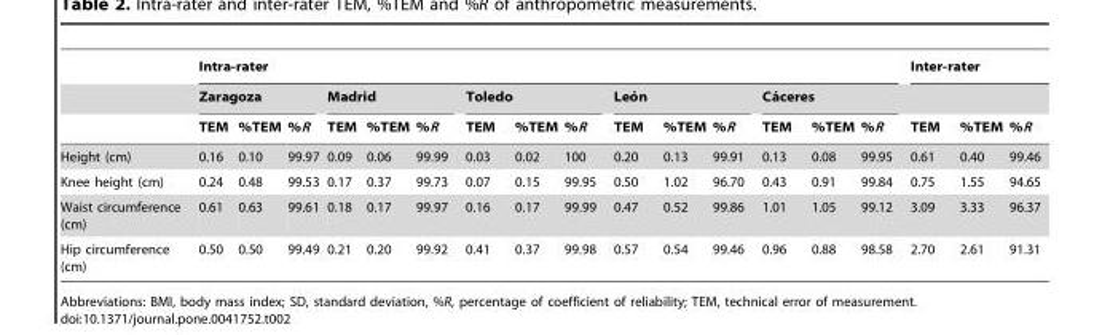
<table><thead><tr><td rowspan="3"></td><td colspan="15">Intra-rater</td><td colspan="3">Inter-rater</td></tr><tr><td colspan="3">Zaragoza</td><td colspan="3">Madrid</td><td colspan="3">Toledo</td><td colspan="3">Leo´ n</td><td colspan="3">Ca´ceres</td><td rowspan="2">TEM</td><td rowspan="2">%TEM</td><td rowspan="2">%R</td></tr><tr><td>TEM</td><td>%TEM</td><td>%R</td><td>TEM</td><td>%TEM</td><td>%R</td><td>TEM</td><td>%TEM</td><td>%R</td><td>TEM</td><td>%TEM</td><td>%R</td><td>TEM</td><td>%TEM</td><td>%R</td></tr></thead><tbody><tr><td>Height (cm)</td><td>0.16</td><td>0.10</td><td>99.97</td><td>0.09</td><td>0.06</td><td>99.99</td><td>0.03</td><td>0.02</td><td>100</td><td>0.20</td><td>0.13</td><td>99.91</td><td>0.13</td><td>0.08</td><td>99.95</td><td>0.61</td><td>0.40</td><td>99.46</td></tr><tr><td>Knee height (cm)</td><td>0.24</td><td>0.48</td><td>99.53</td><td>0.17</td><td>0.37</td><td>99.73</td><td>0.07</td><td>0.15</td><td>99.95</td><td>0.50</td><td>1.02</td><td>96.70</td><td>0.43</td><td>0.91</td><td>99.84</td><td>0.75</td><td>1.55</td><td>94.65</td></tr><tr><td>Waist circumference (cm)</td><td>0.61</td><td>0.63</td><td>99.61</td><td>0.18</td><td>0.17</td><td>99.97</td><td>0.16</td><td>0.17</td><td>99.99</td><td>0.47</td><td>0.52</td><td>99.86</td><td>1.01</td><td>1.05</td><td>99.12</td><td>3.09</td><td>3.33</td><td>96.37</td></tr><tr><td>Hip circumference (cm)</td><td>0.50</td><td>0.50</td><td>99.49</td><td>0.21</td><td>0.20</td><td>99.92</td><td>0.41</td><td>0.37</td><td>99.98</td><td>0.57</td><td>0.54</td><td>99.46</td><td>0.96</td><td>0.88</td><td>98.58</td><td>2.70</td><td>2.61</td><td>91.31</td></tr></tbody></table>